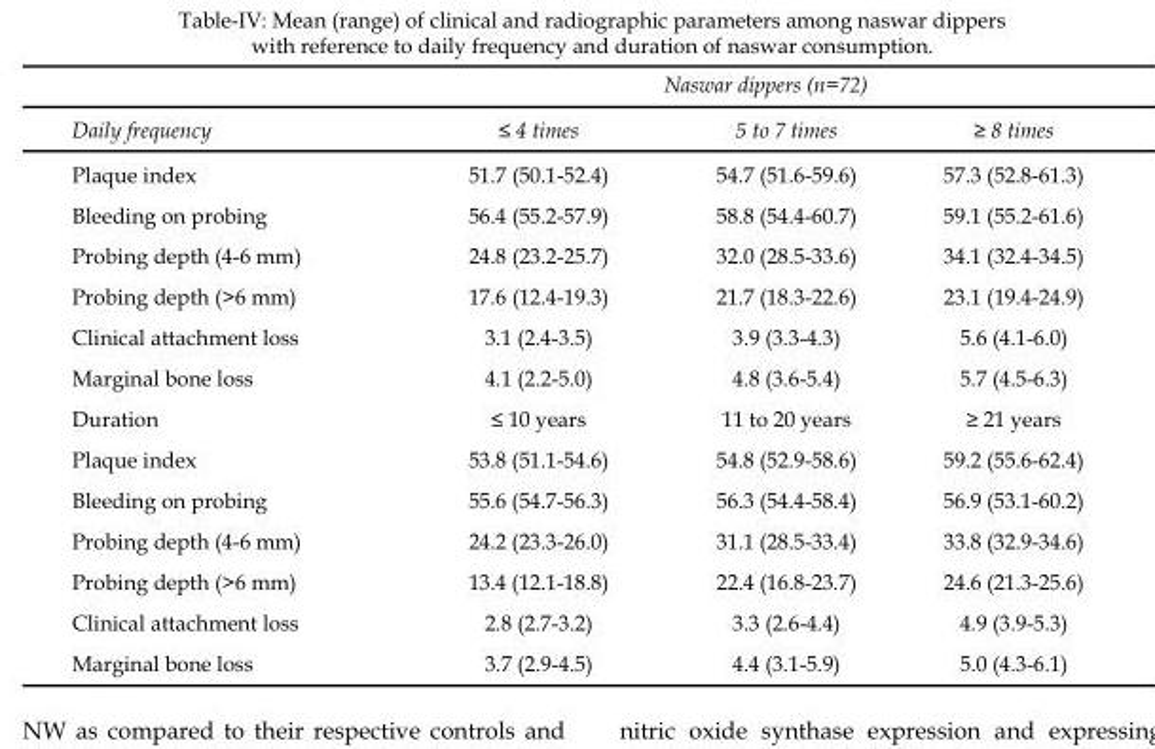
<table><thead><tr><td rowspan="2">Daily frequency</td><td colspan="3">Naswar dippers (n=72)</td></tr><tr><td>≤ 4 times</td><td>5 to 7 times</td><td>≥ 8 times</td></tr></thead><tbody><tr><td>Plaque index</td><td>51.7 (50.1-52.4)</td><td>54.7 (51.6-59.6)</td><td>57.3 (52.8-61.3)</td></tr><tr><td>Bleeding on probing</td><td>56.4 (55.2-57.9)</td><td>58.8 (54.4-60.7)</td><td>59.1 (55.2-61.6)</td></tr><tr><td>Probing depth (4-6 mm)</td><td>24.8 (23.2-25.7)</td><td>32.0 (28.5-33.6)</td><td>34.1 (32.4-34.5)</td></tr><tr><td>Probing depth (&gt;6 mm)</td><td>17.6 (12.4-19.3)</td><td>21.7 (18.3-22.6)</td><td>23.1 (19.4-24.9)</td></tr><tr><td>Clinical attachment loss</td><td>3.1 (2.4-3.5)</td><td>3.9 (3.3-4.3)</td><td>5.6 (4.1-6.0)</td></tr><tr><td>Marginal bone loss</td><td>4.1 (2.2-5.0)</td><td>4.8 (3.6-5.4)</td><td>5.7 (4.5-6.3)</td></tr><tr><td>Duration</td><td>≤ 10 years</td><td>11 to 20 years</td><td>≥ 21 years</td></tr><tr><td>Plaque index</td><td>53.8 (51.1-54.6)</td><td>54.8 (52.9-58.6)</td><td>59.2 (55.6-62.4)</td></tr><tr><td>Bleeding on probing</td><td>55.6 (54.7-56.3)</td><td>56.3 (54.4-58.4)</td><td>56.9 (53.1-60.2)</td></tr><tr><td>Probing depth (4-6 mm)</td><td>24.2 (23.3-26.0)</td><td>31.1 (28.5-33.4)</td><td>33.8 (32.9-34.6)</td></tr><tr><td>Probing depth (&gt;6 mm)</td><td>13.4 (12.1-18.8)</td><td>22.4 (16.8-23.7)</td><td>24.6 (21.3-25.6)</td></tr><tr><td>Clinical attachment loss</td><td>2.8 (2.7-3.2)</td><td>3.3 (2.6-4.4)</td><td>4.9 (3.9-5.3)</td></tr><tr><td>Marginal bone loss</td><td>3.7 (2.9-4.5)</td><td>4.4 (3.1-5.9)</td><td>5.0 (4.3-6.1)</td></tr></tbody></table>